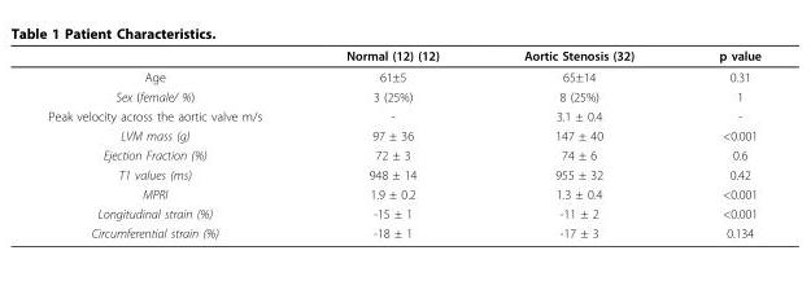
<table><thead><tr><td></td><td>Normal (12) (12)</td><td>Aortic Stenosis (32)</td><td>p value</td></tr></thead><tbody><tr><td>Age</td><td>61±5</td><td>65±14</td><td>0.31</td></tr><tr><td>Sex (female/ %)</td><td>3 (25%)</td><td>8 (25%)</td><td>1</td></tr><tr><td>Peak velocity across the aortic valve m/s</td><td>-</td><td>3.1 ± 0.4</td><td>-</td></tr><tr><td>LVM mass (g)</td><td>97 ± 36</td><td>147 ± 40</td><td>&lt;0.001</td></tr><tr><td>Ejection Fraction (%)</td><td>72 ± 3</td><td>74 ± 6</td><td>0.6</td></tr><tr><td>T1 values (ms)</td><td>948 ± 14</td><td>955 ± 32</td><td>0.42</td></tr><tr><td>MPRI</td><td>1.9 ± 0.2</td><td>1.3 ± 0.4</td><td>&lt;0.001</td></tr><tr><td>Longitudinal strain (%)</td><td>-15 ± 1</td><td>-11 ± 2</td><td>&lt;0.001</td></tr><tr><td>Circumferential strain (%)</td><td>-18 ± 1</td><td>-17 ± 3</td><td>0.134</td></tr></tbody></table>